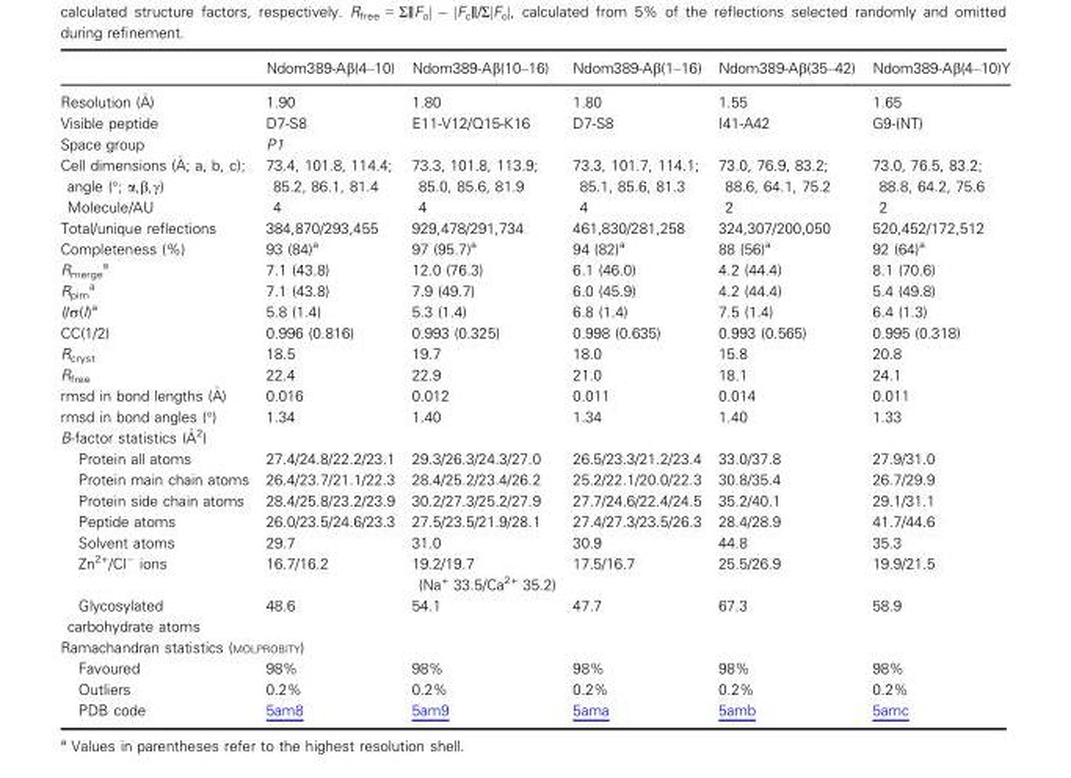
<table><thead><tr><td></td><td>Ndom389-Aβ(4–10)</td><td>Ndom389-Aβ(10–16)</td><td>Ndom389-Aβ(1–16)</td><td>Ndom389-Aβ(35–42)</td><td>Ndom389-Aβ(4–10)Y</td></tr></thead><tbody><tr><td>Resolution (�A)</td><td>1.90</td><td>1.80</td><td>1.80</td><td>1.55</td><td>1.65</td></tr><tr><td>Visible peptide</td><td>D7-S8</td><td>E11-V12/Q15-K16</td><td>D7-S8</td><td>I41-A42</td><td>G9-(NT)</td></tr><tr><td>Space group</td><td colspan="5">P1</td></tr><tr><td>Cell dimensions (�A; a, b, c); angle (°; a,b,c) Molecule/AU</td><td>73.4, 101.8, 114.4; 85.2, 86.1, 81.4 4</td><td>73.3, 101.8, 113.9; 85.0, 85.6, 81.9 4</td><td>73.3, 101.7, 114.1; 85.1, 85.6, 81.3 4</td><td>73.0, 76.9, 83.2; 88.6, 64.1, 75.2 2</td><td>73.0, 76.5, 83.2; 88.8, 64.2, 75.6 2</td></tr><tr><td>Total/unique reflections</td><td>384,870/293,455</td><td>929,478/291,734</td><td>461,830/281,258</td><td>324,307/200,050</td><td>520,452/172,512</td></tr><tr><td>Completeness (%)</td><td>93 (84)<sup>a</sup></td><td>97 (95.7)<sup>a</sup></td><td>94 (82)<sup>a</sup></td><td>88 (56)<sup>a</sup></td><td>92 (64)<sup>a</sup></td></tr><tr><td>R<sub>merge</sub> a</td><td>7.1 (43.8)</td><td>12.0 (76.3)</td><td>6.1 (46.0)</td><td>4.2 (44.4)</td><td>8.1 (70.6)</td></tr><tr><td>R<sub>pim</sub> a</td><td>7.1 (43.8)</td><td>7.9 (49.7)</td><td>6.0 (45.9)</td><td>4.2 (44.4)</td><td>5.4 (49.8)</td></tr><tr><td>I/σ(I)<sup>a</sup></td><td>5.8 (1.4)</td><td>5.3 (1.4)</td><td>6.8 (1.4)</td><td>7.5 (1.4)</td><td>6.4 (1.3)</td></tr><tr><td>CC(1/2)</td><td>0.996 (0.816)</td><td>0.993 (0.325)</td><td>0.998 (0.635)</td><td>0.993 (0.565)</td><td>0.995 (0.318)</td></tr><tr><td>R<sub>cryst</sub></td><td>18.5</td><td>19.7</td><td>18.0</td><td>15.8</td><td>20.8</td></tr><tr><td>R<sub>free</sub></td><td>22.4</td><td>22.9</td><td>21.0</td><td>18.1</td><td>24.1</td></tr><tr><td>rmsd in bond lengths (�A)</td><td>0.016</td><td>0.012</td><td>0.011</td><td>0.014</td><td>0.011</td></tr><tr><td>rmsd in bond angles (°)</td><td>1.34</td><td>1.40</td><td>1.34</td><td>1.40</td><td>1.33</td></tr><tr><td colspan="6">B-factor statistics (�A2)</td></tr><tr><td>Protein all atoms</td><td>27.4/24.8/22.2/23.1</td><td>29.3/26.3/24.3/27.0</td><td>26.5/23.3/21.2/23.4</td><td>33.0/37.8</td><td>27.9/31.0</td></tr><tr><td>Protein main chain atoms</td><td>26.4/23.7/21.1/22.3</td><td>28.4/25.2/23.4/26.2</td><td>25.2/22.1/20.0/22.3</td><td>30.8/35.4</td><td>26.7/29.9</td></tr><tr><td>Protein side chain atoms</td><td>28.4/25.8/23.2/23.9</td><td>30.2/27.3/25.2/27.9</td><td>27.7/24.6/22.4/24.5</td><td>35.2/40.1</td><td>29.1/31.1</td></tr><tr><td>Peptide atoms</td><td>26.0/23.5/24.6/23.3</td><td>27.5/23.5/21.9/28.1</td><td>27.4/27.3/23.5/26.3</td><td>28.4/28.9</td><td>41.7/44.6</td></tr><tr><td>Solvent atoms</td><td>29.7</td><td>31.0</td><td>30.9</td><td>44.8</td><td>35.3</td></tr><tr><td>Zn<sup>2+</sup>/Cl<sup>−</sup> ions</td><td>16.7/16.2</td><td>19.2/19.7 (Na<sup>+</sup> 33.5/Ca<sup>2+</sup> 35.2)</td><td>17.5/16.7</td><td>25.5/26.9</td><td>19.9/21.5</td></tr><tr><td>Glycosylated carbohydrate atoms</td><td>48.6</td><td>54.1</td><td>47.7</td><td>67.3</td><td>58.9</td></tr><tr><td colspan="6">Ramachandran statistics (MOLPROBITY)</td></tr><tr><td>Favoured</td><td>98%</td><td>98%</td><td>98%</td><td>98%</td><td>98%</td></tr><tr><td>Outliers</td><td>0.2%</td><td>0.2%</td><td>0.2%</td><td>0.2%</td><td>0.2%</td></tr><tr><td>PDB code</td><td>5am8</td><td>5am9</td><td>5ama</td><td>5amb</td><td>5amc</td></tr></tbody></table>